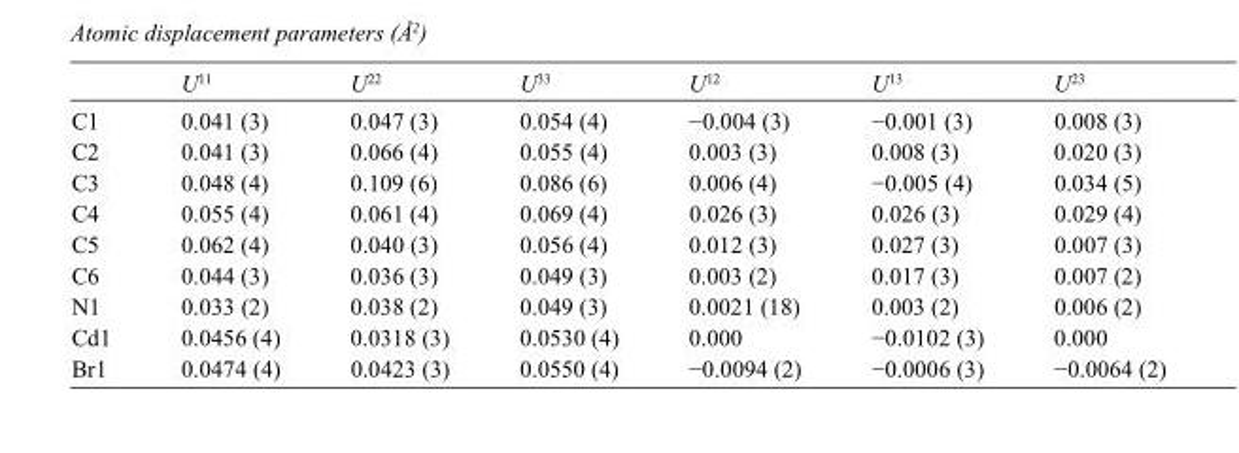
<table><thead><tr><td></td><td>U<sup>11</sup></td><td>U<sup>22</sup></td><td>U<sup>33</sup></td><td>U<sup>12</sup></td><td>U<sup>13</sup></td><td>U<sup>23</sup></td></tr></thead><tbody><tr><td>C1</td><td>0.041 (3)</td><td>0.047 (3)</td><td>0.054 (4)</td><td>−0.004 (3)</td><td>−0.001 (3)</td><td>0.008 (3)</td></tr><tr><td>C2</td><td>0.041 (3)</td><td>0.066 (4)</td><td>0.055 (4)</td><td>0.003 (3)</td><td>0.008 (3)</td><td>0.020 (3)</td></tr><tr><td>C3</td><td>0.048 (4)</td><td>0.109 (6)</td><td>0.086 (6)</td><td>0.006 (4)</td><td>−0.005 (4)</td><td>0.034 (5)</td></tr><tr><td>C4</td><td>0.055 (4)</td><td>0.061 (4)</td><td>0.069 (4)</td><td>0.026 (3)</td><td>0.026 (3)</td><td>0.029 (4)</td></tr><tr><td>C5</td><td>0.062 (4)</td><td>0.040 (3)</td><td>0.056 (4)</td><td>0.012 (3)</td><td>0.027 (3)</td><td>0.007 (3)</td></tr><tr><td>C6</td><td>0.044 (3)</td><td>0.036 (3)</td><td>0.049 (3)</td><td>0.003 (2)</td><td>0.017 (3)</td><td>0.007 (2)</td></tr><tr><td>N1</td><td>0.033 (2)</td><td>0.038 (2)</td><td>0.049 (3)</td><td>0.0021 (18)</td><td>0.003 (2)</td><td>0.006 (2)</td></tr><tr><td>Cd1</td><td>0.0456 (4)</td><td>0.0318 (3)</td><td>0.0530 (4)</td><td>0.000</td><td>−0.0102 (3)</td><td>0.000</td></tr><tr><td>Br1</td><td>0.0474 (4)</td><td>0.0423 (3)</td><td>0.0550 (4)</td><td>−0.0094 (2)</td><td>−0.0006 (3)</td><td>−0.0064 (2)</td></tr></tbody></table>